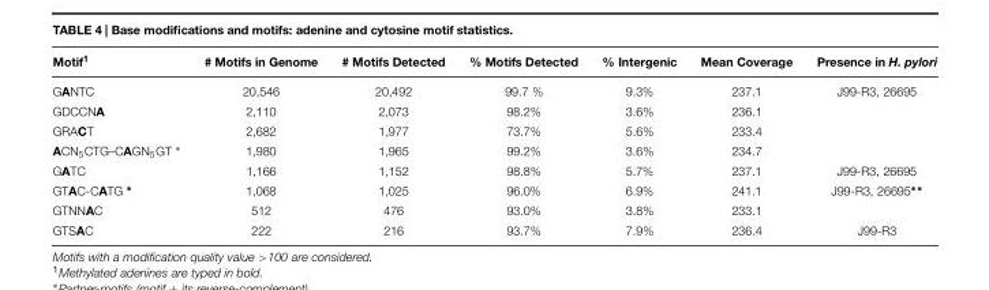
<table><thead><tr><td>Motif<sup>1</sup></td><td># Motifs in Genome</td><td># Motifs Detected</td><td>% Motifs Detected</td><td>% Intergenic</td><td>Mean Coverage</td><td>Presence in H. pylori</td></tr></thead><tbody><tr><td>GANTC</td><td>20,546</td><td>20,492</td><td>99.7 %</td><td>9.3%</td><td>237.1</td><td>J99-R3, 26695</td></tr><tr><td>GDCCNA</td><td>2,110</td><td>2,073</td><td>98.2%</td><td>3.6%</td><td>236.1</td><td></td></tr><tr><td>GRACT</td><td>2,682</td><td>1,977</td><td>73.7%</td><td>5.6%</td><td>233.4</td><td></td></tr><tr><td>ACN<sub>5</sub>CTG–CAGN<sub>5</sub>GT ∗</td><td>1,980</td><td>1,965</td><td>99.2%</td><td>3.6%</td><td>234.7</td><td></td></tr><tr><td>GATC</td><td>1,166</td><td>1,152</td><td>98.8%</td><td>5.7%</td><td>237.1</td><td>J99-R3, 26695</td></tr><tr><td>GTAC-CATG ∗</td><td>1,068</td><td>1,025</td><td>96.0%</td><td>6.9%</td><td>241.1</td><td>J99-R3, 26695∗∗</td></tr><tr><td>GTNNAC</td><td>512</td><td>476</td><td>93.0%</td><td>3.8%</td><td>233.1</td><td></td></tr><tr><td>GTSAC</td><td>222</td><td>216</td><td>93.7%</td><td>7.9%</td><td>236.4</td><td>J99-R3</td></tr></tbody></table>